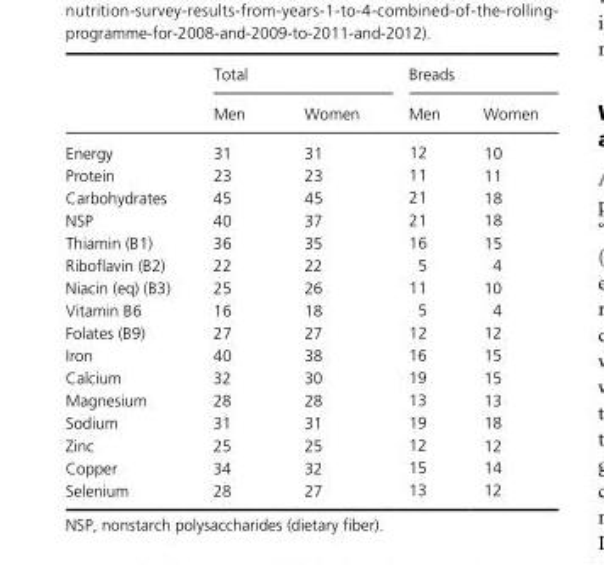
<table><thead><tr><td rowspan="2"></td><td colspan="2">Total</td><td colspan="2">Breads</td></tr><tr><td>Men</td><td>Women</td><td>Men</td><td>Women</td></tr></thead><tbody><tr><td>Energy</td><td>31</td><td>31</td><td>12</td><td>10</td></tr><tr><td>Protein</td><td>23</td><td>23</td><td>11</td><td>11</td></tr><tr><td>Carbohydrates</td><td>45</td><td>45</td><td>21</td><td>18</td></tr><tr><td>NSP</td><td>40</td><td>37</td><td>21</td><td>18</td></tr><tr><td>Thiamin (B1)</td><td>36</td><td>35</td><td>16</td><td>15</td></tr><tr><td>Riboflavin (B2)</td><td>22</td><td>22</td><td>5</td><td>4</td></tr><tr><td>Niacin (eq) (B3)</td><td>25</td><td>26</td><td>11</td><td>10</td></tr><tr><td>Vitamin B6</td><td>16</td><td>18</td><td>5</td><td>4</td></tr><tr><td>Folates (B9)</td><td>27</td><td>27</td><td>12</td><td>12</td></tr><tr><td>Iron</td><td>40</td><td>38</td><td>16</td><td>15</td></tr><tr><td>Calcium</td><td>32</td><td>30</td><td>19</td><td>15</td></tr><tr><td>Magnesium</td><td>28</td><td>28</td><td>13</td><td>13</td></tr><tr><td>Sodium</td><td>31</td><td>31</td><td>19</td><td>18</td></tr><tr><td>Zinc</td><td>25</td><td>25</td><td>12</td><td>12</td></tr><tr><td>Copper</td><td>34</td><td>32</td><td>15</td><td>14</td></tr><tr><td>Selenium</td><td>28</td><td>27</td><td>13</td><td>12</td></tr></tbody></table>